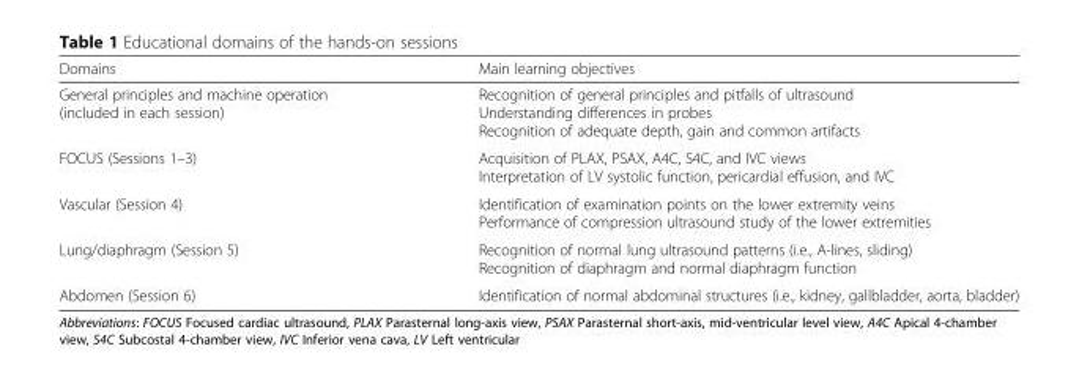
<table><thead><tr><td>Domains</td><td>Main learning objectives</td></tr></thead><tbody><tr><td>General principles and machine operation (included in each session)</td><td>Recognition of general principles and pitfalls of ultrasound Understanding differences in probes Recognition of adequate depth, gain and common artifacts</td></tr><tr><td>FOCUS (Sessions 1–3)</td><td>Acquisition of PLAX, PSAX, A4C, S4C, and IVC views Interpretation of LV systolic function, pericardial effusion, and IVC</td></tr><tr><td>Vascular (Session 4)</td><td>Identification of examination points on the lower extremity veins Performance of compression ultrasound study of the lower extremities</td></tr><tr><td>Lung/diaphragm (Session 5)</td><td>Recognition of normal lung ultrasound patterns (i.e., A-lines, sliding) Recognition of diaphragm and normal diaphragm function</td></tr><tr><td>Abdomen (Session 6)</td><td>Identification of normal abdominal structures (i.e., kidney, gallbladder, aorta, bladder)</td></tr></tbody></table>